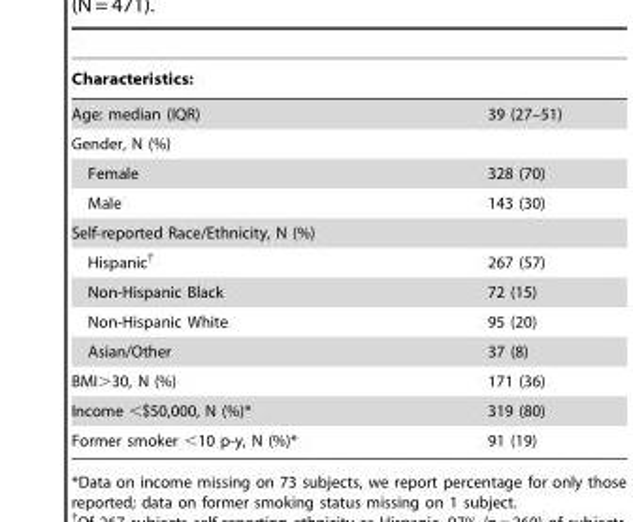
<table><thead><tr><td>Characteristics:</td><td></td></tr></thead><tbody><tr><td>Age: median (IQR)</td><td>39 (27–51)</td></tr><tr><td colspan="2">Gender, N (%)</td></tr><tr><td>Female</td><td>328 (70)</td></tr><tr><td>Male</td><td>143 (30)</td></tr><tr><td colspan="2">Self-reported Race/Ethnicity, N (%)</td></tr><tr><td>Hispanic†</td><td>267 (57)</td></tr><tr><td>Non-Hispanic Black</td><td>72 (15)</td></tr><tr><td>Non-Hispanic White</td><td>95 (20)</td></tr><tr><td>Asian/Other</td><td>37 (8)</td></tr><tr><td>BMI&gt;30, N (%)</td><td>171 (36)</td></tr><tr><td>Income &lt;$50,000, N (%)*</td><td>319 (80)</td></tr><tr><td>Former smoker &lt;10 p-y, N (%)*</td><td>91 (19)</td></tr></tbody></table>